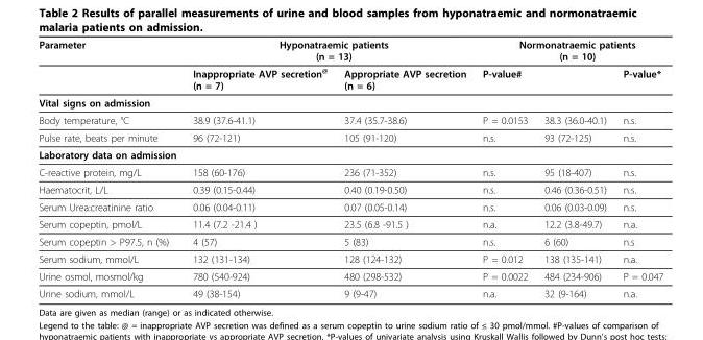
<table><thead><tr><td rowspan="2">Parameter</td><td colspan="2">Hyponatraemic patients (n = 13)</td><td colspan="3">Normonatraemic patients (n = 10)</td></tr><tr><td>Inappropriate AVP secretion@ (n = 7)</td><td>Appropriate AVP secretion (n = 6)</td><td>P-value#</td><td></td><td>P-value*</td></tr></thead><tbody><tr><td colspan="6">Vital signs on admission</td></tr><tr><td>Body temperature, °C</td><td>38.9 (37.6-41.1)</td><td>37.4 (35.7-38.6)</td><td>P = 0.0153</td><td>38.3 (36.0-40.1)</td><td>n.s.</td></tr><tr><td>Pulse rate, beats per minute</td><td>96 (72-121)</td><td>105 (91-120)</td><td>n.s.</td><td>93 (72-125)</td><td>n.s.</td></tr><tr><td colspan="6">Laboratory data on admission</td></tr><tr><td>C-reactive protein, mg/L</td><td>158 (60-176)</td><td>236 (71-352)</td><td>n.s.</td><td>95 (18-407)</td><td>n.s.</td></tr><tr><td>Haematocrit, L/L</td><td>0.39 (0.15-0.44)</td><td>0.40 (0.19-0.50)</td><td>n.s.</td><td>0.46 (0.36-0.51)</td><td>n.s.</td></tr><tr><td>Serum Urea:creatinine ratio</td><td>0.06 (0.04-0.11)</td><td>0.07 (0.05-0.14)</td><td>n.s.</td><td>0.06 (0.03-0.09)</td><td>n.s.</td></tr><tr><td>Serum copeptin, pmol/L</td><td>11.4 (7.2 -21.4 )</td><td>23.5 (6.8 -91.5 )</td><td>n.a.</td><td>12.2 (3.8-49.7)</td><td>n.a.</td></tr><tr><td>Serum copeptin &gt; P97.5, n (%)</td><td>4 (57)</td><td>5 (83)</td><td>n.s.</td><td>6 (60)</td><td>n.s</td></tr><tr><td>Serum sodium, mmol/L</td><td>132 (131-134)</td><td>128 (124-132)</td><td>P = 0.012</td><td>138 (135-141)</td><td>n.a.</td></tr><tr><td>Urine osmol, mosmol/kg</td><td>780 (540-924)</td><td>480 (298-532)</td><td>P = 0.0022</td><td>484 (234-906)</td><td>P = 0.047</td></tr><tr><td>Urine sodium, mmol/L</td><td>49 (38-154)</td><td>9 (9-47)</td><td>n.a.</td><td>32 (9-164)</td><td>n.a.</td></tr></tbody></table>